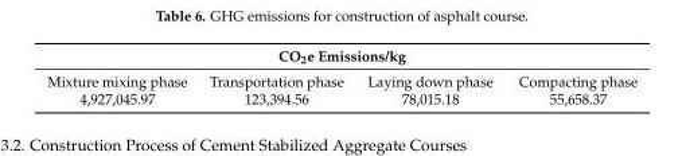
<table><thead><tr><td colspan="4">CO<sub>2</sub>e Emissions/kg</td></tr><tr><td>Mixture mixing phase</td><td>Transportation phase</td><td>Laying down phase</td><td>Compacting phase</td></tr></thead><tbody><tr><td>4,927,045.97</td><td>123,394.56</td><td>78,015.18</td><td>55,658.37</td></tr></tbody></table>